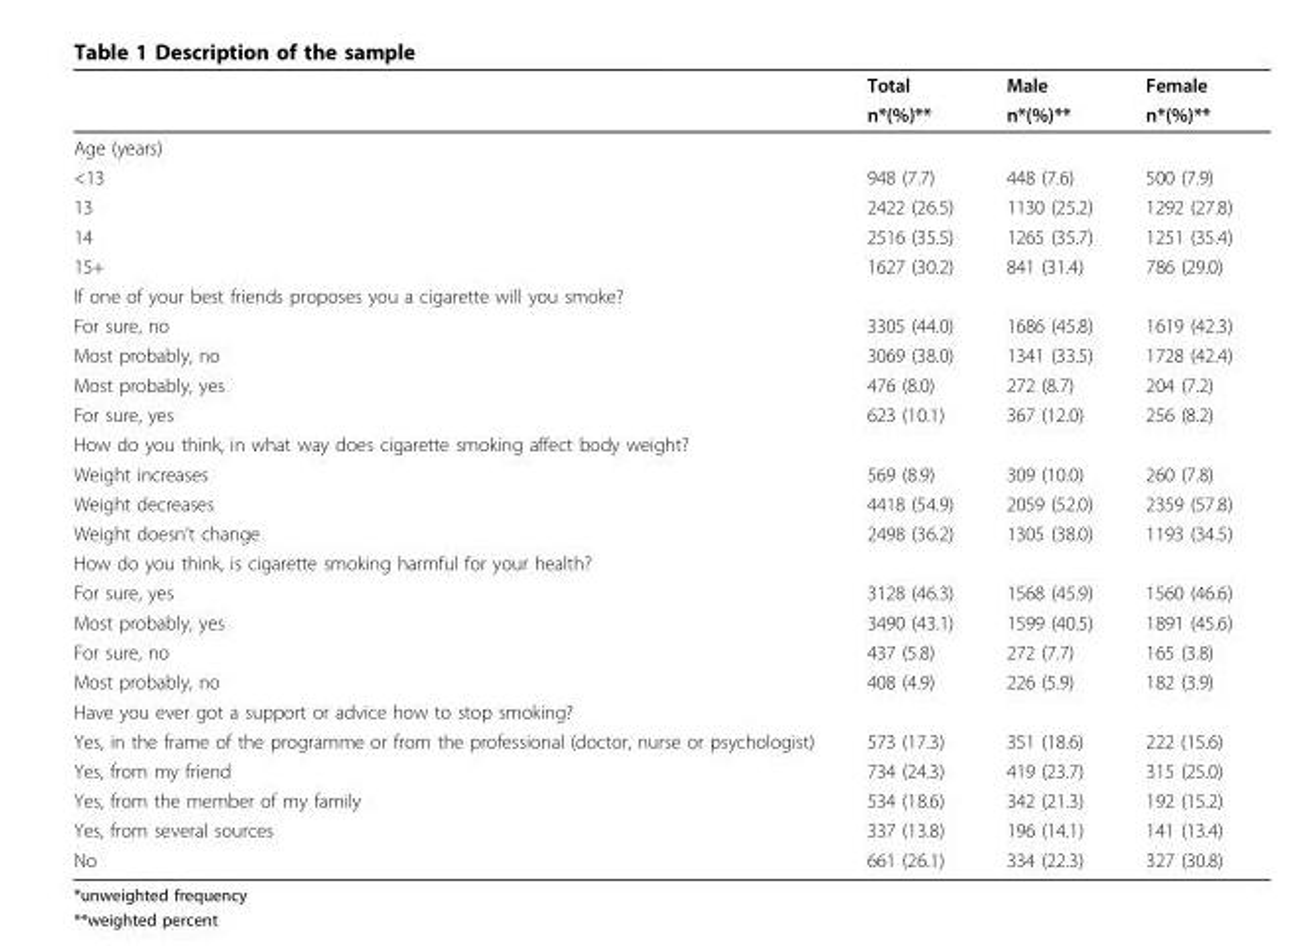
<table><thead><tr><td rowspan="2"></td><td rowspan="2">Total n*(%)**</td><td rowspan="2">Male n*(%)**</td><td rowspan="2">Female n*(%)**</td></tr><tr></tr></thead><tbody><tr><td colspan="4">Age (years)</td></tr><tr><td>&lt;13</td><td>948 (7.7)</td><td>448 (7.6)</td><td>500 (7.9)</td></tr><tr><td>13</td><td>2422 (26.5)</td><td>1130 (25.2)</td><td>1292 (27.8)</td></tr><tr><td>14</td><td>2516 (35.5)</td><td>1265 (35.7)</td><td>1251 (35.4)</td></tr><tr><td>15+</td><td>1627 (30.2)</td><td>841 (31.4)</td><td>786 (29.0)</td></tr><tr><td colspan="4">If one of your best friends proposes you a cigarette will you smoke?</td></tr><tr><td>For sure, no</td><td>3305 (44.0)</td><td>1686 (45.8)</td><td>1619 (42.3)</td></tr><tr><td>Most probably, no</td><td>3069 (38.0)</td><td>1341 (33.5)</td><td>1728 (42.4)</td></tr><tr><td>Most probably, yes</td><td>476 (8.0)</td><td>272 (8.7)</td><td>204 (7.2)</td></tr><tr><td>For sure, yes</td><td>623 (10.1)</td><td>367 (12.0)</td><td>256 (8.2)</td></tr><tr><td colspan="4">How do you think, in what way does cigarette smoking affect body weight?</td></tr><tr><td>Weight increases</td><td>569 (8.9)</td><td>309 (10.0)</td><td>260 (7.8)</td></tr><tr><td>Weight decreases</td><td>4418 (54.9)</td><td>2059 (52.0)</td><td>2359 (57.8)</td></tr><tr><td>Weight doesn’t change</td><td>2498 (36.2)</td><td>1305 (38.0)</td><td>1193 (34.5)</td></tr><tr><td colspan="4">How do you think, is cigarette smoking harmful for your health?</td></tr><tr><td>For sure, yes</td><td>3128 (46.3)</td><td>1568 (45.9)</td><td>1560 (46.6)</td></tr><tr><td>Most probably, yes</td><td>3490 (43.1)</td><td>1599 (40.5)</td><td>1891 (45.6)</td></tr><tr><td>For sure, no</td><td>437 (5.8)</td><td>272 (7.7)</td><td>165 (3.8)</td></tr><tr><td>Most probably, no</td><td>408 (4.9)</td><td>226 (5.9)</td><td>182 (3.9)</td></tr><tr><td colspan="4">Have you ever got a support or advice how to stop smoking?</td></tr><tr><td>Yes, in the frame of the programme or from the professional (doctor, nurse or psychologist)</td><td>573 (17.3)</td><td>351 (18.6)</td><td>222 (15.6)</td></tr><tr><td>Yes, from my friend</td><td>734 (24.3)</td><td>419 (23.7)</td><td>315 (25.0)</td></tr><tr><td>Yes, from the member of my family</td><td>534 (18.6)</td><td>342 (21.3)</td><td>192 (15.2)</td></tr><tr><td>Yes, from several sources</td><td>337 (13.8)</td><td>196 (14.1)</td><td>141 (13.4)</td></tr><tr><td>No</td><td>661 (26.1)</td><td>334 (22.3)</td><td>327 (30.8)</td></tr></tbody></table>